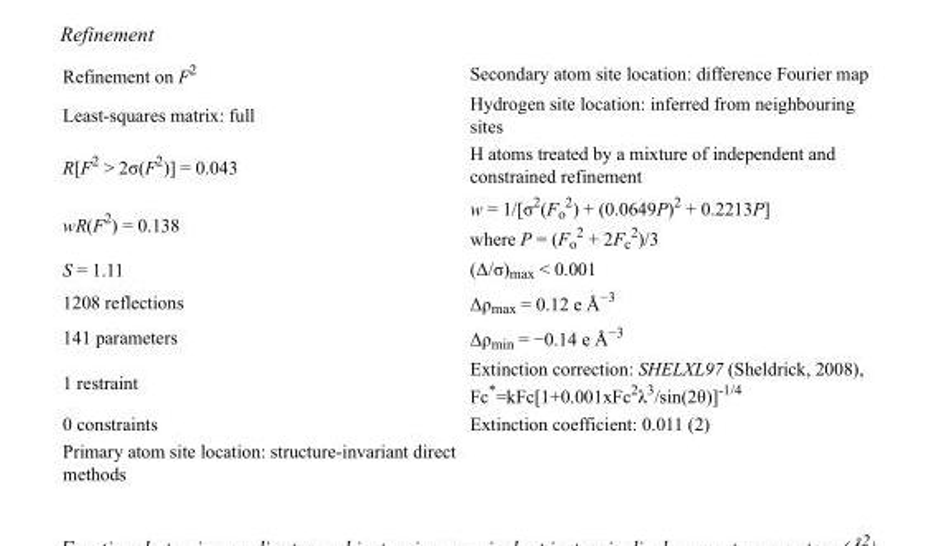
<table><tbody><tr><td>Refinement on F<sup>2</sup></td><td>Secondary atom site location: difference Fourier map</td></tr><tr><td>Least-squares matrix: full</td><td>Hydrogen site location: inferred from neighbouring sites</td></tr><tr><td>R[F<sup>2</sup> &gt; 2σ(F<sup>2</sup>)] = 0.043</td><td>H atoms treated by a mixture of independent and constrained refinement</td></tr><tr><td>wR(F<sup>2</sup>) = 0.138</td><td>w = 1/[σ<sup>2</sup>(F<sub>o</sub> <sup>2</sup>) + (0.0649P)<sup>2</sup> + 0.2213P] where P = (F<sub>o</sub> <sup>2</sup> + 2F<sub>c</sub> <sup>2</sup>)/3</td></tr><tr><td>S = 1.11</td><td>(Δ/σ)<sub>max</sub> &lt; 0.001</td></tr><tr><td>1208 reflections</td><td>Δρ<sub>max</sub> = 0.12 e Å<sup>−3</sup></td></tr><tr><td>141 parameters</td><td>Δρ<sub>min</sub> = −0.14 e Å<sup>−3</sup></td></tr><tr><td>1 restraint</td><td>Extinction correction: SHELXL97 (Sheldrick, 2008), Fc*=kFc[1+0.001xFc<sup>2</sup>λ<sup>3</sup>/sin(2θ)]<sup>-1/4</sup></td></tr><tr><td>0 constraints</td><td>Extinction coefficient: 0.011 (2)</td></tr><tr><td>Primary atom site location: structure-invariant direct methods</td><td></td></tr></tbody></table>